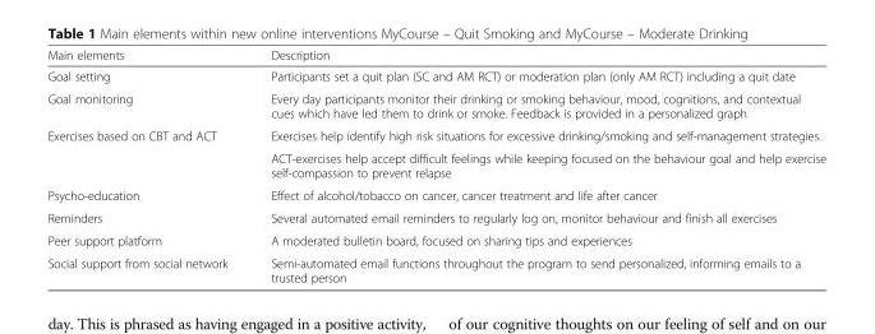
<table><thead><tr><td>Main elements</td><td>Description</td></tr></thead><tbody><tr><td>Goal setting</td><td>Participants set a quit plan (SC and AM RCT) or moderation plan (only AM RCT) including a quit date</td></tr><tr><td>Goal monitoring</td><td>Every day participants monitor their drinking or smoking behaviour, mood, cognitions, and contextual cues which have led them to drink or smoke. Feedback is provided in a personalized graph</td></tr><tr><td rowspan="2">Exercises based on CBT and ACT</td><td>Exercises help identify high risk situations for excessive drinking/smoking and self-management strategies.</td></tr><tr><td>ACT-exercises help accept difficult feelings while keeping focused on the behaviour goal and help exercise self-compassion to prevent relapse</td></tr><tr><td>Psycho-education</td><td>Effect of alcohol/tobacco on cancer, cancer treatment and life after cancer</td></tr><tr><td>Reminders</td><td>Several automated email reminders to regularly log on, monitor behaviour and finish all exercises</td></tr><tr><td>Peer support platform</td><td>A moderated bulletin board, focused on sharing tips and experiences</td></tr><tr><td>Social support from social network</td><td>Semi-automated email functions throughout the program to send personalized, informing emails to a trusted person</td></tr></tbody></table>